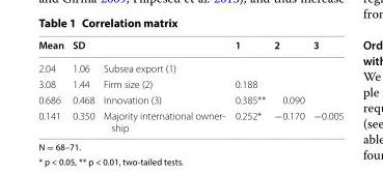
<table><thead><tr><td>Mean</td><td>SD</td><td></td><td>1</td><td>2</td><td>3</td></tr></thead><tbody><tr><td>2.04</td><td>1.06</td><td>Subsea export (1)</td><td></td><td></td><td></td></tr><tr><td>3.08</td><td>1.44</td><td>Firm size (2)</td><td>0.188</td><td></td><td></td></tr><tr><td>0.686</td><td>0.468</td><td>Innovation (3)</td><td>0.385**</td><td>0.090</td><td></td></tr><tr><td>0.141</td><td>0.350</td><td>Majority international owner‑ ship</td><td>0.252*</td><td>−0.170</td><td>−0.005</td></tr></tbody></table>